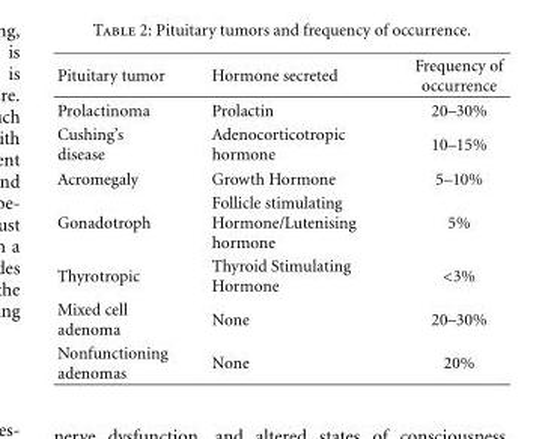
<table><thead><tr><td>Pituitary tumor</td><td>Hormone secreted</td><td>Frequency of occurrence</td></tr></thead><tbody><tr><td>Prolactinoma</td><td>Prolactin</td><td>20–30%</td></tr><tr><td>Cushing’s disease</td><td>Adenocorticotropic hormone</td><td>10–15%</td></tr><tr><td>Acromegaly</td><td>Growth Hormone</td><td>5–10%</td></tr><tr><td>Gonadotroph</td><td>Follicle stimulating Hormone/Lutenising hormone</td><td>5%</td></tr><tr><td>Thyrotropic</td><td>Thyroid Stimulating Hormone</td><td>&lt;3%</td></tr><tr><td>Mixed cell adenoma</td><td>None</td><td>20–30%</td></tr><tr><td>Nonfunctioning adenomas</td><td>None</td><td>20%</td></tr></tbody></table>